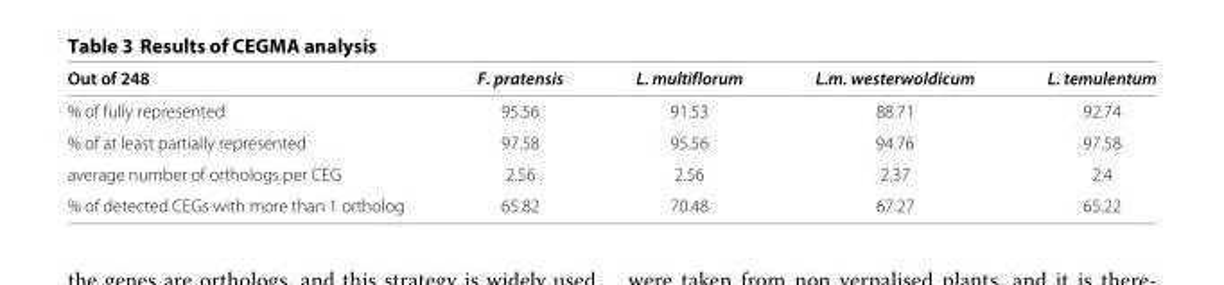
<table><thead><tr><td>Out of 248</td><td>F. pratensis</td><td>L. multiflorum</td><td>L.m. westerwoldicum</td><td>L. temulentum</td></tr></thead><tbody><tr><td>% of fully represented</td><td>95.56</td><td>91.53</td><td>88.71</td><td>92.74</td></tr><tr><td>% of at least partially represented</td><td>97.58</td><td>95.56</td><td>94.76</td><td>97.58</td></tr><tr><td>average number of orthologs per CEG</td><td>2.56</td><td>2.56</td><td>2.37</td><td>2.4</td></tr><tr><td>% of detected CEGs with more than 1 ortholog</td><td>65.82</td><td>70.48</td><td>67.27</td><td>65.22</td></tr></tbody></table>